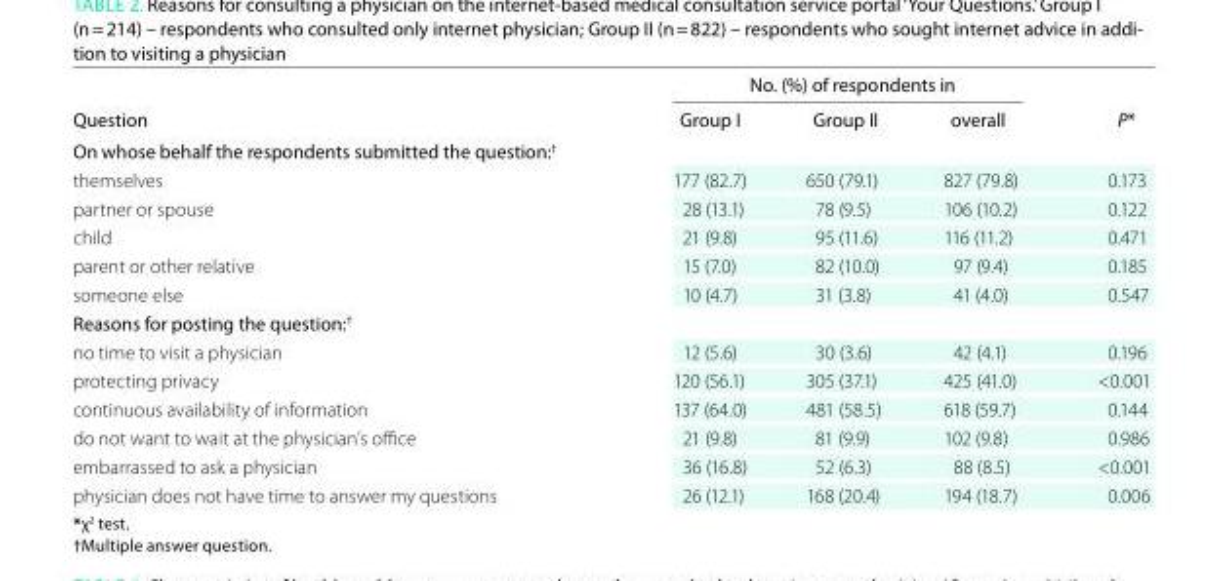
<table><thead><tr><td rowspan="2">Question</td><td colspan="3">No. (%) of respondents in</td><td rowspan="2">P*</td></tr><tr><td>Group I</td><td>Group II</td><td>overall</td></tr></thead><tbody><tr><td colspan="5">on whose behalf the respondents submitted the question:<sup>†</sup></td></tr><tr><td>themselves</td><td>177 (82.7)</td><td>650 (79.1)</td><td>827 (79.8)</td><td>0.173</td></tr><tr><td>partner or spouse</td><td>28 (13.1)</td><td>78 (9.5)</td><td>106 (10.2)</td><td>0.122</td></tr><tr><td>child</td><td>21 (9.8)</td><td>95 (11.6)</td><td>116 (11.2)</td><td>0.471</td></tr><tr><td>parent or other relative</td><td>15 (7.0)</td><td>82 (10.0)</td><td>97 (9.4)</td><td>0.185</td></tr><tr><td>someone else</td><td>10 (4.7)</td><td>31 (3.8)</td><td>41 (4.0)</td><td>0.547</td></tr><tr><td colspan="5">Reasons for posting the question:<sup>†</sup></td></tr><tr><td>no time to visit a physician</td><td>12 (5.6)</td><td>30 (3.6)</td><td>42 (4.1)</td><td>0.196</td></tr><tr><td>protecting privacy</td><td>120 (56.1)</td><td>305 (37.1)</td><td>425 (41.0)</td><td>&lt;0.001</td></tr><tr><td>continuous availability of information</td><td>137 (64.0)</td><td>481 (58.5)</td><td>618 (59.7)</td><td>0.144</td></tr><tr><td>do not want to wait at the physician’s office</td><td>21 (9.8)</td><td>81 (9.9)</td><td>102 (9.8)</td><td>0.986</td></tr><tr><td>embarrassed to ask a physician</td><td>36 (16.8)</td><td>52 (6.3)</td><td>88 (8.5)</td><td>&lt;0.001</td></tr><tr><td>physician does not have time to answer my questions</td><td>26 (12.1)</td><td>168 (20.4)</td><td>194 (18.7)</td><td>0.006</td></tr></tbody></table>